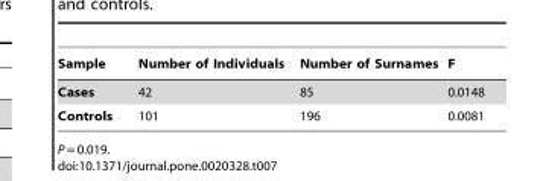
<table><thead><tr><td>Sample</td><td>Number of Individuals</td><td>Number of Surnames</td><td>F</td></tr></thead><tbody><tr><td>Cases</td><td>42</td><td>85</td><td>0.0148</td></tr><tr><td>Controls</td><td>101</td><td>196</td><td>0.0081</td></tr></tbody></table>